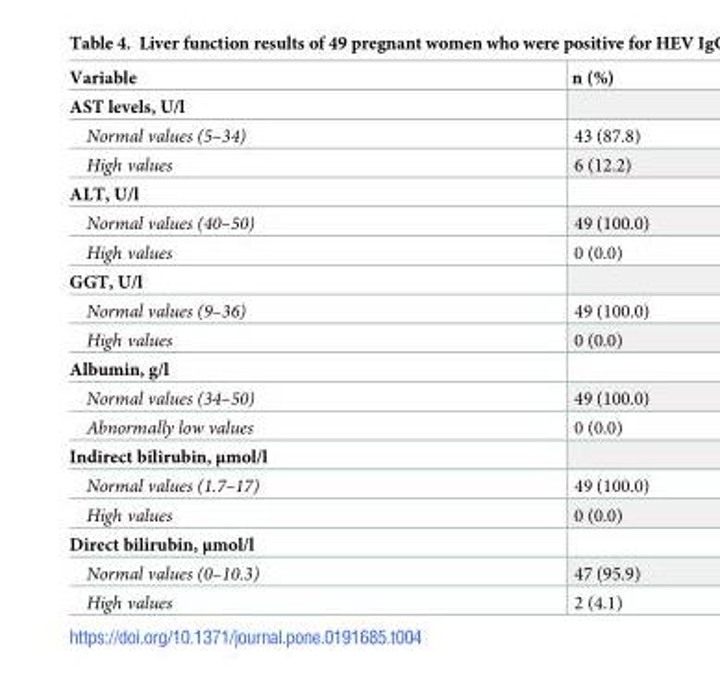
<table><thead><tr><td>Variable</td><td>n (%)</td></tr></thead><tbody><tr><td colspan="2">AST levels, U/l</td></tr><tr><td>Normal values (5–34)</td><td>43 (87.8)</td></tr><tr><td>High values</td><td>6 (12.2)</td></tr><tr><td colspan="2">ALT, U/l</td></tr><tr><td>Normal values (40–50)</td><td>49 (100.0)</td></tr><tr><td>High values</td><td>0 (0.0)</td></tr><tr><td colspan="2">GGT, U/l</td></tr><tr><td>Normal values (9–36)</td><td>49 (100.0)</td></tr><tr><td>High values</td><td>0 (0.0)</td></tr><tr><td colspan="2">Albumin, g/l</td></tr><tr><td>Normal values (34–50)</td><td>49 (100.0)</td></tr><tr><td>Abnormally low values</td><td>0 (0.0)</td></tr><tr><td colspan="2">Indirect bilirubin, μmol/l</td></tr><tr><td>Normal values (1.7–17)</td><td>49 (100.0)</td></tr><tr><td>High values</td><td>0 (0.0)</td></tr><tr><td colspan="2">Direct bilirubin, μmol/l</td></tr><tr><td>Normal values (0–10.3)</td><td>47 (95.9)</td></tr><tr><td>High values</td><td>2 (4.1)</td></tr></tbody></table>